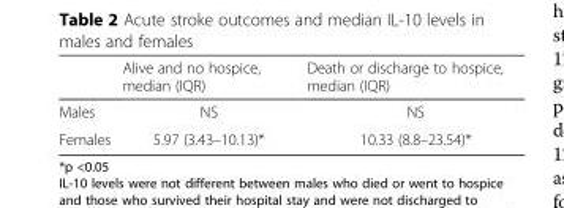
<table><thead><tr><td></td><td>Alive and no hospice, median (IQR)</td><td>Death or discharge to hospice, median (IQR)</td></tr></thead><tbody><tr><td>Males</td><td>NS</td><td>NS</td></tr><tr><td>Females</td><td>5.97 (3.43–10.13)*</td><td>10.33 (8.8–23.54)*</td></tr></tbody></table>